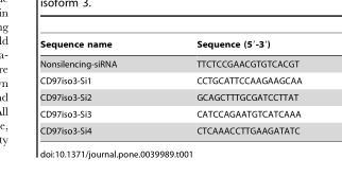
<table><thead><tr><td>Sequence name</td><td>Sequence (5′-3′)</td></tr></thead><tbody><tr><td>Nonsilencing-siRNA</td><td>TTCTCCGAACGTGTCACGT</td></tr><tr><td>CD97iso3-Si1</td><td>CCTGCATTCCAAGAAGCAA</td></tr><tr><td>CD97iso3-Si2</td><td>GCAGCTTTGCGATCCTTAT</td></tr><tr><td>CD97iso3-Si3</td><td>CATCCAGAATGTCATCAAA</td></tr><tr><td>CD97iso3-Si4</td><td>CTCAAACCTTGAAGATATC</td></tr></tbody></table>